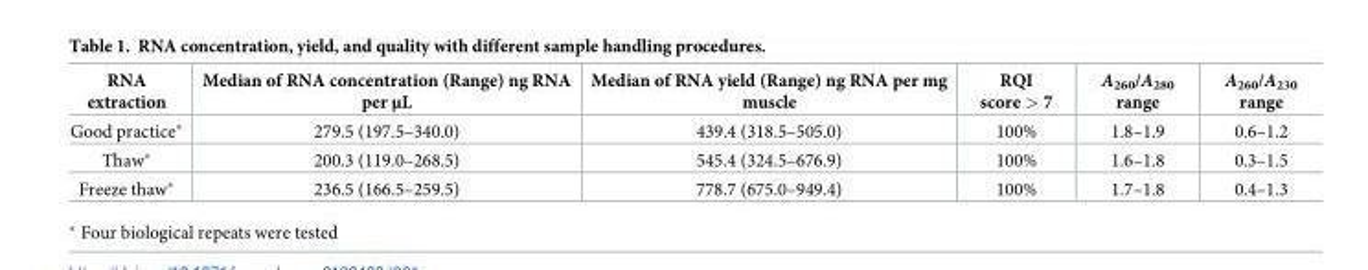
<table><thead><tr><td>RNA extraction</td><td>Median of RNA concentration (Range) ng RNA per μL</td><td>Median of RNA yield (Range) ng RNA per mg muscle</td><td>RQI score &gt; 7</td><td>A<sub>260</sub>/A<sub>280</sub> range</td><td>A<sub>260</sub>/A<sub>230</sub> range</td></tr></thead><tbody><tr><td>Good practice*</td><td>279.5 (197.5–340.0)</td><td>439.4 (318.5–505.0)</td><td>100%</td><td>1.8–1.9</td><td>0.6–1.2</td></tr><tr><td>Thaw*</td><td>200.3 (119.0–268.5)</td><td>545.4 (324.5–676.9)</td><td>100%</td><td>1.6–1.8</td><td>0.3–1.5</td></tr><tr><td>Freeze thaw*</td><td>236.5 (166.5–259.5)</td><td>778.7 (675.0–949.4)</td><td>100%</td><td>1.7–1.8</td><td>0.4–1.3</td></tr></tbody></table>